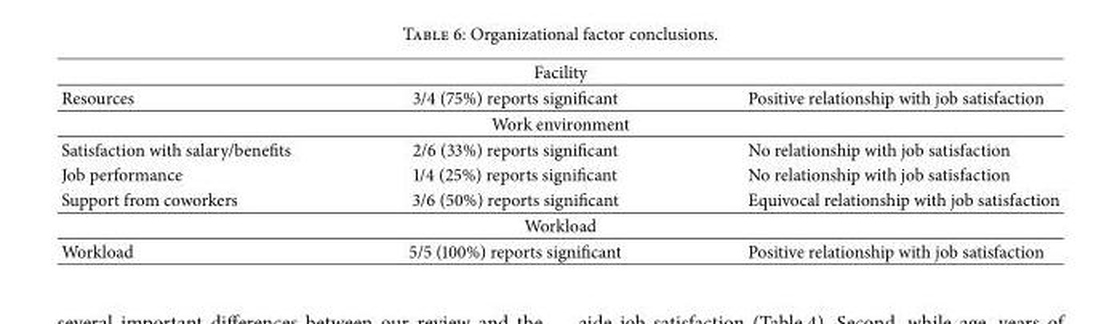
<table><tbody><tr><td colspan="3">Facility</td></tr><tr><td>Resources</td><td>3/4 (75%) reports significant</td><td>Positive relationship with job satisfaction</td></tr><tr><td colspan="3">Work environment</td></tr><tr><td>Satisfaction with salary/benefits</td><td>2/6 (33%) reports significant</td><td>No relationship with job satisfaction</td></tr><tr><td>Job performance</td><td>1/4 (25%) reports significant</td><td>No relationship with job satisfaction</td></tr><tr><td>Support from coworkers</td><td>3/6 (50%) reports significant</td><td>Equivocal relationship with job satisfaction</td></tr><tr><td colspan="3">Workload</td></tr><tr><td>Workload</td><td>5/5 (100%) reports significant</td><td>Positive relationship with job satisfaction</td></tr></tbody></table>